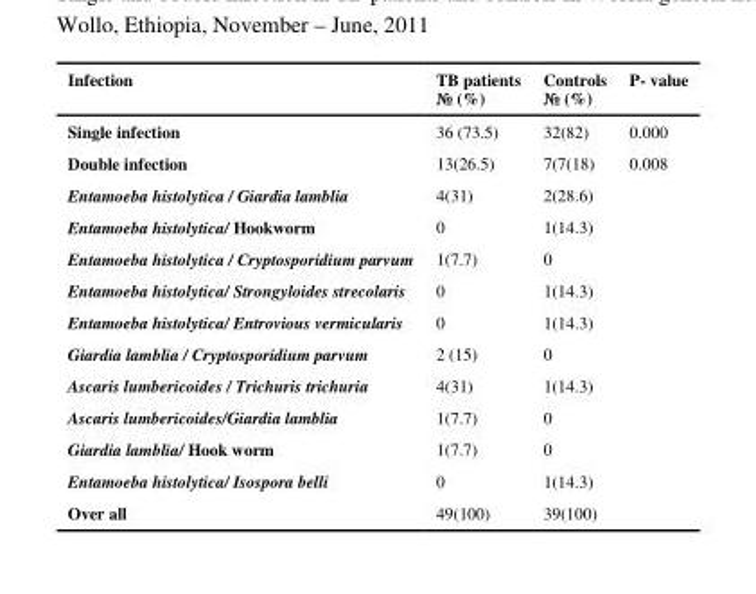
<table><thead><tr><td>Infection</td><td>TB patients № (%)</td><td>Controls № (%)</td><td>P- value</td></tr></thead><tbody><tr><td>Single infection</td><td>36 (73.5)</td><td>32(82)</td><td>0.000</td></tr><tr><td>Double infection</td><td>13(26.5)</td><td>7(7(18)</td><td>0.008</td></tr><tr><td>Entamoeba histolytica / Giardia lamblia</td><td>4(31)</td><td>2(28.6)</td><td></td></tr><tr><td>Entamoeba histolytica/ Hookworm</td><td>0</td><td>1(14.3)</td><td></td></tr><tr><td>Entamoeba histolytica / Cryptosporidium parvum</td><td>1(7.7)</td><td>0</td><td></td></tr><tr><td>Entamoeba histolytica/ Strongyloides strecolaris</td><td>0</td><td>1(14.3)</td><td></td></tr><tr><td>Entamoeba histolytica/ Entrovious vermicularis</td><td>0</td><td>1(14.3)</td><td></td></tr><tr><td>Giardia lamblia / Cryptosporidium parvum</td><td>2 (15)</td><td>0</td><td></td></tr><tr><td>Ascaris lumbericoides / Trichuris trichuria</td><td>4(31)</td><td>1(14.3)</td><td></td></tr><tr><td>Ascaris lumbericoides/Giardia lamblia</td><td>1(7.7)</td><td>0</td><td></td></tr><tr><td>Giardia lamblia/ Hook worm</td><td>1(7.7)</td><td>0</td><td></td></tr><tr><td>Entamoeba histolytica/ Isospora belli</td><td>0</td><td>1(14.3)</td><td></td></tr><tr><td>Over all</td><td>49(100)</td><td>39(100)</td><td></td></tr></tbody></table>